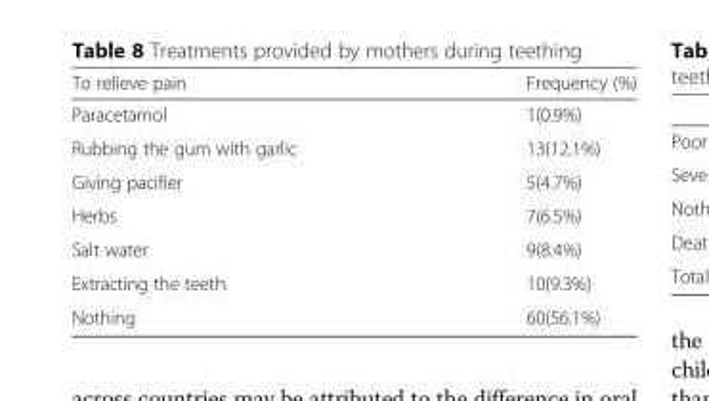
<table><thead><tr><td>To relieve pain</td><td>Frequency (%)</td></tr></thead><tbody><tr><td>Paracetamol</td><td>1(0.9%)</td></tr><tr><td>Rubbing the gum with garlic</td><td>13(12.1%)</td></tr><tr><td>Giving pacifier</td><td>5(4.7%)</td></tr><tr><td>Herbs</td><td>7(6.5%)</td></tr><tr><td>Salt water</td><td>9(8.4%)</td></tr><tr><td>Extracting the teeth</td><td>10(9.3%)</td></tr><tr><td>Nothing</td><td>60(56.1%)</td></tr></tbody></table>